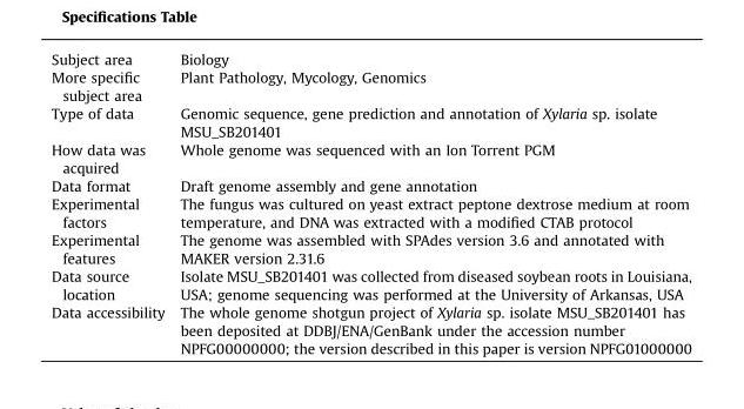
<table><tbody><tr><td>Subject area</td><td>Biology</td></tr><tr><td>More specific subject area</td><td>Plant Pathology, Mycology, Genomics</td></tr><tr><td>Type of data</td><td>Genomic sequence, gene prediction and annotation of Xylaria sp. isolate MSU_SB201401</td></tr><tr><td>How data was acquired</td><td>Whole genome was sequenced with an Ion Torrent PGM</td></tr><tr><td>Data format</td><td>Draft genome assembly and gene annotation</td></tr><tr><td>Experimental factors</td><td>The fungus was cultured on yeast extract peptone dextrose medium at room temperature, and DNA was extracted with a modified CTAB protocol</td></tr><tr><td>Experimental features</td><td>The genome was assembled with SPAdes version 3.6 and annotated with MAKER version 2.31.6</td></tr><tr><td>Data source location</td><td>Isolate MSU_SB201401 was collected from diseased soybean roots in Louisiana, USA; genome sequencing was performed at the University of Arkansas, USA</td></tr><tr><td>Data accessibility</td><td>The whole genome shotgun project of Xylaria sp. isolate MSU_SB201401 has been deposited at DDBJ/ENA/GenBank under the accession number NPFG00000000; the version described in this paper is version NPFG01000000</td></tr></tbody></table>